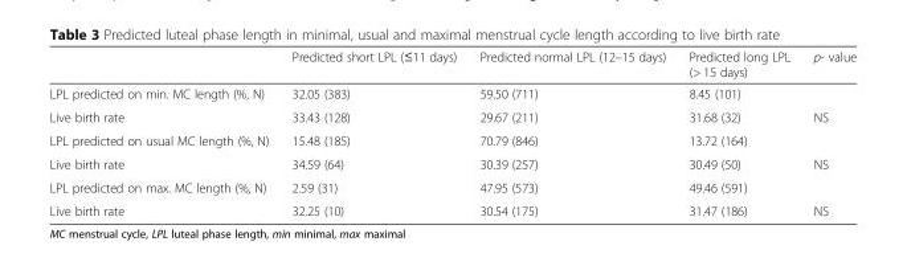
<table><thead><tr><td></td><td>Predicted short LPL (≤11 days)</td><td>Predicted normal LPL (12–15 days)</td><td>Predicted long LPL (&gt; 15 days)</td><td>p- value</td></tr></thead><tbody><tr><td>LPL predicted on min. MC length (%, N)</td><td>32.05 (383)</td><td>59.50 (711)</td><td>8.45 (101)</td><td></td></tr><tr><td>Live birth rate</td><td>33.43 (128)</td><td>29.67 (211)</td><td>31.68 (32)</td><td>NS</td></tr><tr><td>LPL predicted on usual MC length (%, N)</td><td>15.48 (185)</td><td>70.79 (846)</td><td>13.72 (164)</td><td></td></tr><tr><td>Live birth rate</td><td>34.59 (64)</td><td>30.39 (257)</td><td>30.49 (50)</td><td>NS</td></tr><tr><td>LPL predicted on max. MC length (%, N)</td><td>2.59 (31)</td><td>47.95 (573)</td><td>49.46 (591)</td><td></td></tr><tr><td>Live birth rate</td><td>32.25 (10)</td><td>30.54 (175)</td><td>31.47 (186)</td><td>NS</td></tr></tbody></table>